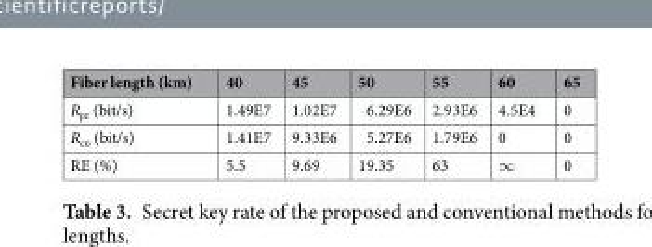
<table><thead><tr><td>Fiber length (km)</td><td>40</td><td>45</td><td>50</td><td>55</td><td>60</td><td>65</td></tr></thead><tbody><tr><td>R<sub>pr</sub> (bit/s)</td><td>1.49E7</td><td>1.02E7</td><td>6.29E6</td><td>2.93E6</td><td>4.5E4</td><td>0</td></tr><tr><td>R<sub>co</sub> (bit/s)</td><td>1.41E7</td><td>9.33E6</td><td>5.27E6</td><td>1.79E6</td><td>0</td><td>0</td></tr><tr><td>RE (%)</td><td>5.5</td><td>9.69</td><td>19.35</td><td>63</td><td>∞</td><td>0</td></tr></tbody></table>